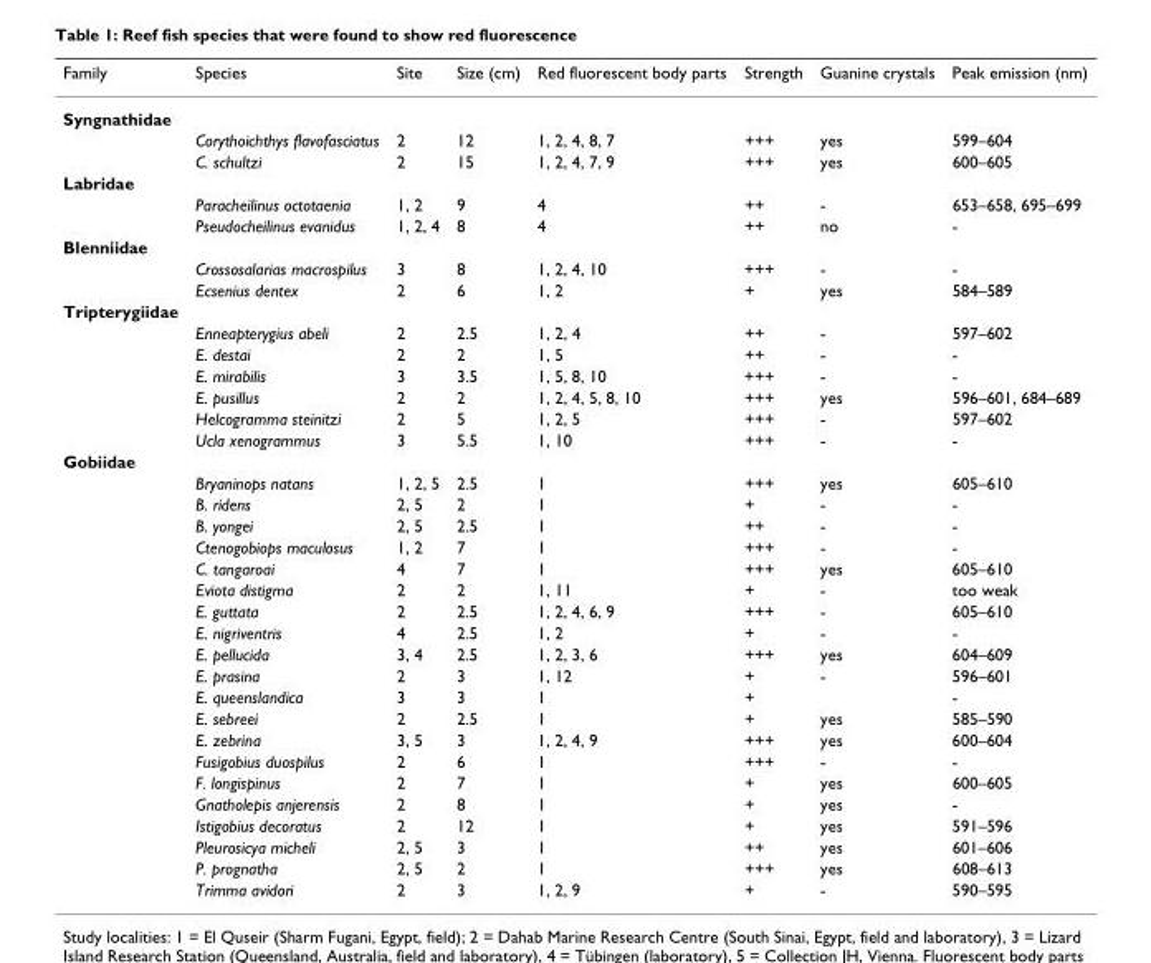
<table><thead><tr><td>Family</td><td>Species</td><td>Site</td><td>Size (cm)</td><td>Red fluorescent body parts</td><td>Strength</td><td>Guanine crystals</td><td>Peak emission (nm)</td></tr></thead><tbody><tr><td colspan="8">Syngnathidae</td></tr><tr><td></td><td>Corythoichthys flavofasciatus</td><td>2</td><td>12</td><td>1, 2, 4, 8, 7</td><td>+++</td><td>yes</td><td>599–604</td></tr><tr><td></td><td>C. schultzi</td><td>2</td><td>15</td><td>1, 2, 4, 7, 9</td><td>+++</td><td>yes</td><td>600–605</td></tr><tr><td colspan="8">Labridae</td></tr><tr><td></td><td>Paracheilinus octotaenia</td><td>1, 2</td><td>9</td><td>4</td><td>++</td><td>-</td><td>653–658, 695–699</td></tr><tr><td></td><td>Pseudocheilinus evanidus</td><td>1, 2, 4</td><td>8</td><td>4</td><td>++</td><td>no</td><td>-</td></tr><tr><td colspan="8">Blenniidae</td></tr><tr><td></td><td>Crossosalarias macrospilus</td><td>3</td><td>8</td><td>1, 2, 4, 10</td><td>+++</td><td>-</td><td>-</td></tr><tr><td></td><td>Ecsenius dentex</td><td>2</td><td>6</td><td>1, 2</td><td>+</td><td>yes</td><td>584–589</td></tr><tr><td colspan="8">Tripterygiidae</td></tr><tr><td></td><td>Enneapterygius abeli</td><td>2</td><td>2.5</td><td>1, 2, 4</td><td>++</td><td>-</td><td>597–602</td></tr><tr><td></td><td>E. destai</td><td>2</td><td>2</td><td>1, 5</td><td>++</td><td>-</td><td>-</td></tr><tr><td></td><td>E. mirabilis</td><td>3</td><td>3.5</td><td>1, 5, 8, 10</td><td>+++</td><td>-</td><td>-</td></tr><tr><td></td><td>E. pusillus</td><td>2</td><td>2</td><td>1, 2, 4, 5, 8, 10</td><td>+++</td><td>yes</td><td>596–601, 684–689</td></tr><tr><td></td><td>Helcogramma steinitzi</td><td>2</td><td>5</td><td>1, 2, 5</td><td>+++</td><td>-</td><td>597–602</td></tr><tr><td></td><td>Ucla xenogrammus</td><td>3</td><td>5.5</td><td>1, 10</td><td>+++</td><td>-</td><td>-</td></tr><tr><td colspan="8">Gobiidae</td></tr><tr><td></td><td>Bryaninops natans</td><td>1, 2, 5</td><td>2.5</td><td>1</td><td>+++</td><td>yes</td><td>605–610</td></tr><tr><td></td><td>B. ridens</td><td>2, 5</td><td>2</td><td>1</td><td>+</td><td>-</td><td>-</td></tr><tr><td></td><td>B. yongei</td><td>2, 5</td><td>2.5</td><td>1</td><td>++</td><td>-</td><td>-</td></tr><tr><td></td><td>Ctenogobiops maculosus</td><td>1, 2</td><td>7</td><td>1</td><td>+++</td><td>-</td><td>-</td></tr><tr><td></td><td>C. tangaroai</td><td>4</td><td>7</td><td>1</td><td>+++</td><td>yes</td><td>605–610</td></tr><tr><td></td><td>Eviota distigma</td><td>2</td><td>2</td><td>1, 11</td><td>+</td><td>-</td><td>too weak</td></tr><tr><td></td><td>E. guttata</td><td>2</td><td>2.5</td><td>1, 2, 4, 6, 9</td><td>+++</td><td>-</td><td>605–610</td></tr><tr><td></td><td>E. nigriventris</td><td>4</td><td>2.5</td><td>1, 2</td><td>+</td><td>-</td><td>-</td></tr><tr><td></td><td>E. pellucida</td><td>3, 4</td><td>2.5</td><td>1, 2, 3, 6</td><td>+++</td><td>yes</td><td>604–609</td></tr><tr><td></td><td>E. prasina</td><td>2</td><td>3</td><td>1, 12</td><td>+</td><td>-</td><td>596–601</td></tr><tr><td></td><td>E. queenslandica</td><td>3</td><td>3</td><td>1</td><td>+</td><td></td><td>-</td></tr><tr><td></td><td>E. sebreei</td><td>2</td><td>2.5</td><td>1</td><td>+</td><td>yes</td><td>585–590</td></tr><tr><td></td><td>E. zebrina</td><td>3, 5</td><td>3</td><td>1, 2, 4, 9</td><td>+++</td><td>yes</td><td>600–604</td></tr><tr><td></td><td>Fusigobius duospilus</td><td>2</td><td>6</td><td>1</td><td>+++</td><td>-</td><td>-</td></tr><tr><td></td><td>F. longispinus</td><td>2</td><td>7</td><td>1</td><td>+</td><td>yes</td><td>600–605</td></tr><tr><td></td><td>Gnatholepis anjerensis</td><td>2</td><td>8</td><td>1</td><td>+</td><td>yes</td><td>-</td></tr><tr><td></td><td>Istigobius decoratus</td><td>2</td><td>12</td><td>1</td><td>+</td><td>yes</td><td>591–596</td></tr><tr><td></td><td>Pleurosicya micheli</td><td>2, 5</td><td>3</td><td>1</td><td>++</td><td>yes</td><td>601–606</td></tr><tr><td></td><td>P. prognatha</td><td>2, 5</td><td>2</td><td>1</td><td>+++</td><td>yes</td><td>608–613</td></tr><tr><td></td><td>Trimma avidori</td><td>2</td><td>3</td><td>1, 2, 9</td><td>+</td><td>-</td><td>590–595</td></tr></tbody></table>